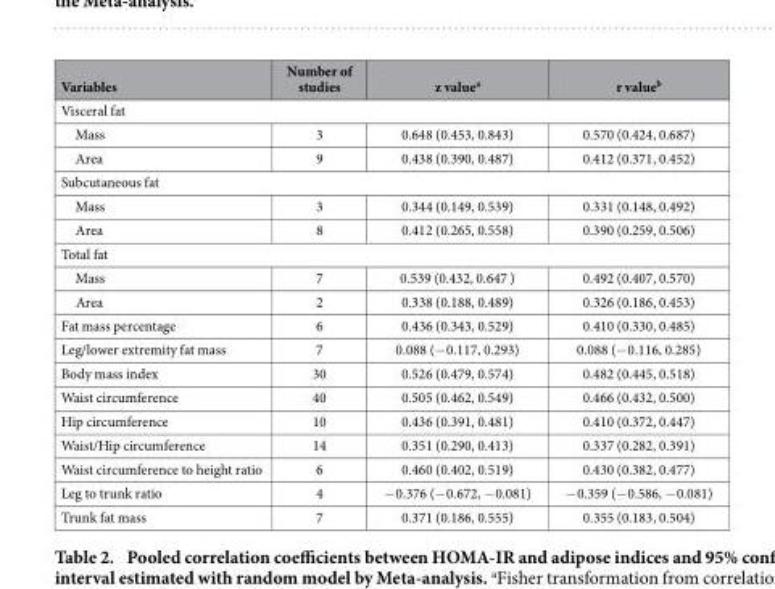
<table><thead><tr><td>Variables</td><td><sub>Number of studies</sub></td><td>z value<sup>a</sup></td><td>r value<sup>b</sup></td></tr></thead><tbody><tr><td colspan="4">Visceral fat</td></tr><tr><td>Mass</td><td>3</td><td>0.648 (0.453, 0.843)</td><td>0.570 (0.424, 0.687)</td></tr><tr><td>Area</td><td>9</td><td>0.438 (0.390, 0.487)</td><td>0.412 (0.371, 0.452)</td></tr><tr><td colspan="4">Subcutaneous fat</td></tr><tr><td>Mass</td><td>3</td><td>0.344 (0.149, 0.539)</td><td>0.331 (0.148, 0.492)</td></tr><tr><td>Area</td><td>8</td><td>0.412 (0.265, 0.558)</td><td>0.390 (0.259, 0.506)</td></tr><tr><td colspan="4">Total fat</td></tr><tr><td>Mass</td><td>7</td><td>0.539 (0.432, 0.647 )</td><td>0.492 (0.407, 0.570)</td></tr><tr><td>Area</td><td>2</td><td>0.338 (0.188, 0.489)</td><td>0.326 (0.186, 0.453)</td></tr><tr><td>Fat mass percentage</td><td>6</td><td>0.436 (0.343, 0.529)</td><td>0.410 (0.330, 0.485)</td></tr><tr><td>Leg/lower extremity fat mass</td><td>7</td><td>0.088 (− 0.117, 0.293)</td><td>0.088 (− 0.116, 0.285)</td></tr><tr><td>Body mass index</td><td>30</td><td>0.526 (0.479, 0.574)</td><td>0.482 (0.445, 0.518)</td></tr><tr><td>Waist circumference</td><td>40</td><td>0.505 (0.462, 0.549)</td><td>0.466 (0.432, 0.500)</td></tr><tr><td>Hip circumference</td><td>10</td><td>0.436 (0.391, 0.481)</td><td>0.410 (0.372, 0.447)</td></tr><tr><td>Waist/Hip circumference</td><td>14</td><td>0.351 (0.290, 0.413)</td><td>0.337 (0.282, 0.391)</td></tr><tr><td>Waist circumference to height ratio</td><td>6</td><td>0.460 (0.402, 0.519)</td><td>0.430 (0.382, 0.477)</td></tr><tr><td>Leg to trunk ratio</td><td>4</td><td>− 0.376 (− 0.672, − 0.081)</td><td>− 0.359 (− 0.586, − 0.081)</td></tr><tr><td>Trunk fat mass</td><td>7</td><td>0.371 (0.186, 0.555)</td><td>0.355 (0.183, 0.504)</td></tr></tbody></table>